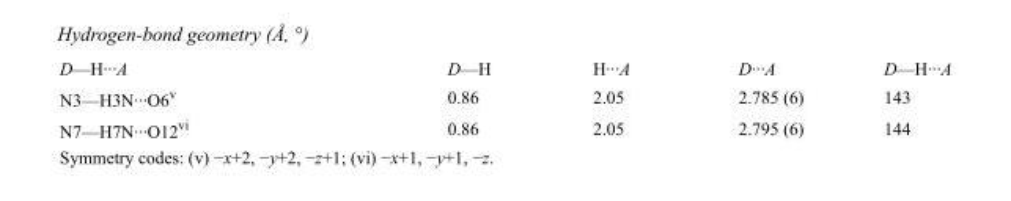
<table><tbody><tr><td>D—H···A</td><td>D—H</td><td>H···A</td><td>D···A</td><td>D—H···A</td></tr><tr><td>N3—H3N···O6<sup>v</sup></td><td>0.86</td><td>2.05</td><td>2.785 (6)</td><td>143</td></tr><tr><td>N7—H7N···O12<sup>vi</sup></td><td>0.86</td><td>2.05</td><td>2.795 (6)</td><td>144</td></tr></tbody></table>